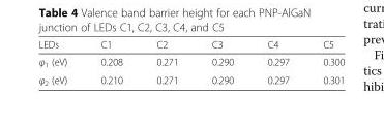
<table><thead><tr><td>LEDs</td><td>C1</td><td>C2</td><td>C3</td><td>C4</td><td>C5</td></tr></thead><tbody><tr><td>φ<sub>1</sub> (eV)</td><td>0.208</td><td>0.271</td><td>0.290</td><td>0.297</td><td>0.300</td></tr><tr><td>φ<sub>2</sub> (eV)</td><td>0.210</td><td>0.271</td><td>0.290</td><td>0.297</td><td>0.301</td></tr></tbody></table>